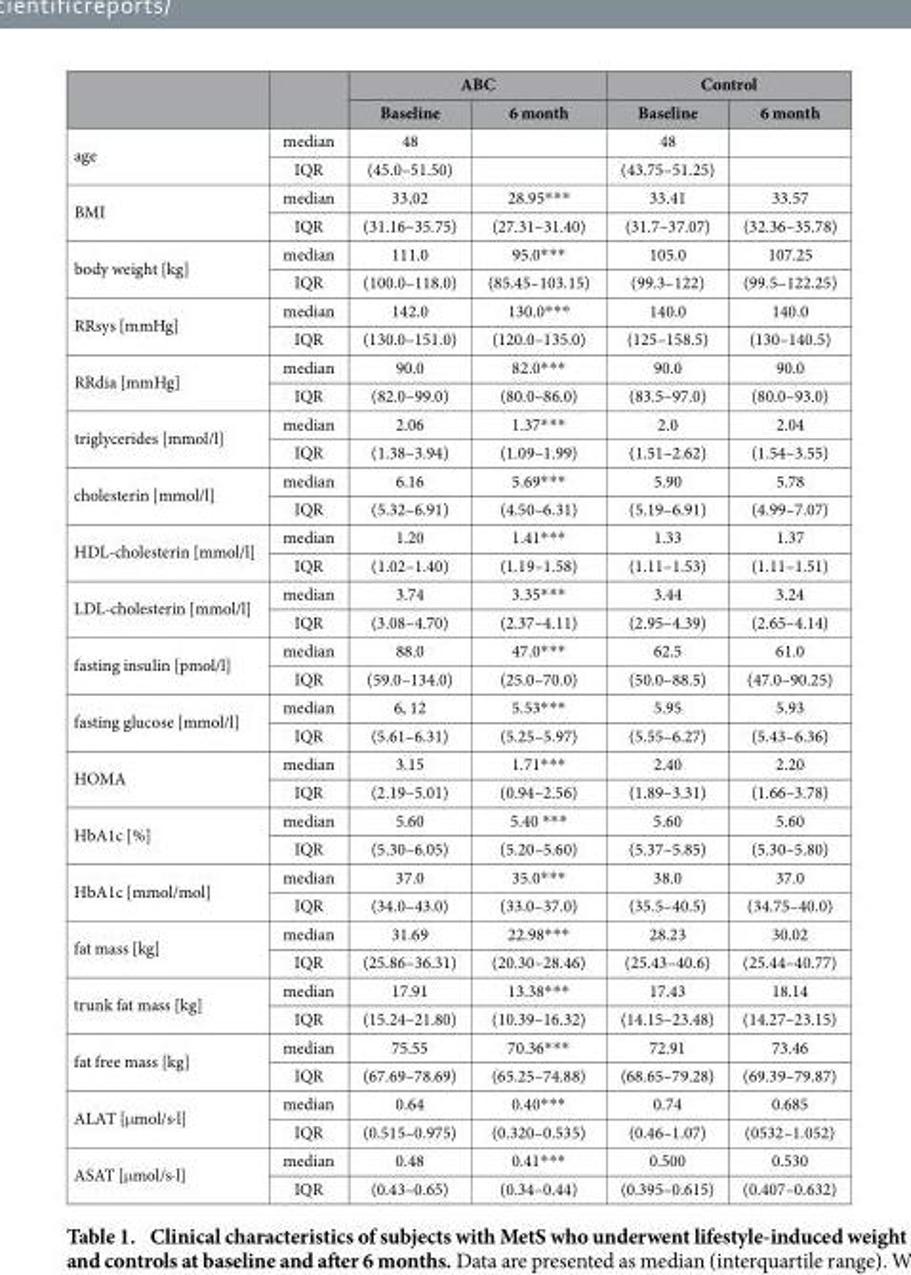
<table><thead><tr><td rowspan="2"></td><td rowspan="2"></td><td colspan="2">ABC</td><td colspan="2">Control</td></tr><tr><td>Baseline</td><td>6 month</td><td>Baseline</td><td>6 month</td></tr></thead><tbody><tr><td rowspan="2">age</td><td>median</td><td>48</td><td></td><td>48</td><td></td></tr><tr><td>IQR</td><td>(45.0–51.50)</td><td></td><td>(43.75–51.25)</td><td></td></tr><tr><td rowspan="2">BMI</td><td>median</td><td>33,02</td><td>28.95* * *</td><td>33.41</td><td>33.57</td></tr><tr><td>IQR</td><td>(31.16–35.75)</td><td>(27.31–31.40)</td><td>(31.7–37.07)</td><td>(32.36–35.78)</td></tr><tr><td rowspan="2">body weight [kg]</td><td>median</td><td>111.0</td><td>95.0* * *</td><td>105.0</td><td>107.25</td></tr><tr><td>IQR</td><td>(100.0–118.0)</td><td>(85.45–103.15)</td><td>(99.3–122)</td><td>(99.5–122.25)</td></tr><tr><td rowspan="2">RRsys [mmHg]</td><td>median</td><td>142.0</td><td>130.0* * *</td><td>140.0</td><td>140.0</td></tr><tr><td>IQR</td><td>(130.0–151.0)</td><td>(120.0–135.0)</td><td>(125–158.5)</td><td>(130–140.5)</td></tr><tr><td rowspan="2">RRdia [mmHg]</td><td>median</td><td>90.0</td><td>82.0* * *</td><td>90.0</td><td>90.0</td></tr><tr><td>IQR</td><td>(82.0–99.0)</td><td>(80.0–86.0)</td><td>(83.5–97.0)</td><td>(80.0–93.0)</td></tr><tr><td rowspan="2">triglycerides [mmol/l]</td><td>median</td><td>2.06</td><td>1.37* * *</td><td>2.0</td><td>2.04</td></tr><tr><td>IQR</td><td>(1.38–3.94)</td><td>(1.09–1.99)</td><td>(1.51–2.62)</td><td>(1.54–3.55)</td></tr><tr><td rowspan="2">cholesterin [mmol/l]</td><td>median</td><td>6.16</td><td>5.69* * *</td><td>5.90</td><td>5.78</td></tr><tr><td>IQR</td><td>(5.32–6.91)</td><td>(4.50–6.31)</td><td>(5.19–6.91)</td><td>(4.99–7.07)</td></tr><tr><td rowspan="2">HDL-cholesterin [mmol/l]</td><td>median</td><td>1.20</td><td>1.41* * *</td><td>1.33</td><td>1.37</td></tr><tr><td>IQR</td><td>(1.02–1.40)</td><td>(1.19–1.58)</td><td>(1.11–1.53)</td><td>(1.11–1.51)</td></tr><tr><td rowspan="2">LDL-cholesterin [mmol/l]</td><td>median</td><td>3.74</td><td>3.35* * *</td><td>3.44</td><td>3.24</td></tr><tr><td>IQR</td><td>(3.08–4.70)</td><td>(2.37–4.11)</td><td>(2.95–4.39)</td><td>(2.65–4.14)</td></tr><tr><td rowspan="2">fasting insulin [pmol/l]</td><td>median</td><td>88.0</td><td>47.0* * *</td><td>62.5</td><td>61.0</td></tr><tr><td>IQR</td><td>(59.0–134.0)</td><td>(25.0–70.0)</td><td>(50.0–88.5)</td><td>(47.0–90.25)</td></tr><tr><td rowspan="2">fasting glucose [mmol/l]</td><td>median</td><td>6, 12</td><td>5.53* * *</td><td>5.95</td><td>5.93</td></tr><tr><td>IQR</td><td>(5.61–6.31)</td><td>(5.25–5.97)</td><td>(5.55–6.27)</td><td>(5.43–6.36)</td></tr><tr><td rowspan="2">HOMA</td><td>median</td><td>3.15</td><td>1.71* * *</td><td>2.40</td><td>2.20</td></tr><tr><td>IQR</td><td>(2.19–5.01)</td><td>(0.94–2.56)</td><td>(1.89–3.31)</td><td>(1.66–3.78)</td></tr><tr><td rowspan="2">HbA1c [%]</td><td>median</td><td>5.60</td><td>5.40 * * *</td><td>5.60</td><td>5.60</td></tr><tr><td>IQR</td><td>(5.30–6.05)</td><td>(5.20–5.60)</td><td>(5.37–5.85)</td><td>(5.30–5.80)</td></tr><tr><td rowspan="2">HbA1c [mmol/mol]</td><td>median</td><td>37.0</td><td>35.0* * *</td><td>38.0</td><td>37.0</td></tr><tr><td>IQR</td><td>(34.0–43.0)</td><td>(33.0–37.0)</td><td>(35.5–40.5)</td><td>(34.75–40.0)</td></tr><tr><td rowspan="2">fat mass [kg]</td><td>median</td><td>31.69</td><td>22.98* * *</td><td>28.23</td><td>30.02</td></tr><tr><td>IQR</td><td>(25.86–36.31)</td><td>(20.30–28.46)</td><td>(25.43–40.6)</td><td>(25.44–40.77)</td></tr><tr><td rowspan="2">trunk fat mass [kg]</td><td>median</td><td>17.91</td><td>13.38* * *</td><td>17.43</td><td>18.14</td></tr><tr><td>IQR</td><td>(15.24–21.80)</td><td>(10.39–16.32)</td><td>(14.15–23.48)</td><td>(14.27–23.15)</td></tr><tr><td rowspan="2">fat free mass [kg]</td><td>median</td><td>75.55</td><td>70.36* * *</td><td>72.91</td><td>73.46</td></tr><tr><td>IQR</td><td>(67.69–78.69)</td><td>(65.25–74.88)</td><td>(68.65–79.28)</td><td>(69.39–79.87)</td></tr><tr><td rowspan="2">ALAT [μ mol/s·l]</td><td>median</td><td>0.64</td><td>0.40* * *</td><td>0.74</td><td>0.685</td></tr><tr><td>IQR</td><td>(0.515–0.975)</td><td>(0.320–0.535)</td><td>(0.46–1.07)</td><td>(0532–1.052)</td></tr><tr><td rowspan="2">ASAT [μ mol/s·l]</td><td>median</td><td>0.48</td><td>0.41* * *</td><td>0.500</td><td>0.530</td></tr><tr><td>IQR</td><td>(0.43–0.65)</td><td>(0.34–0.44)</td><td>(0.395–0.615)</td><td>(0.407–0.632)</td></tr></tbody></table>